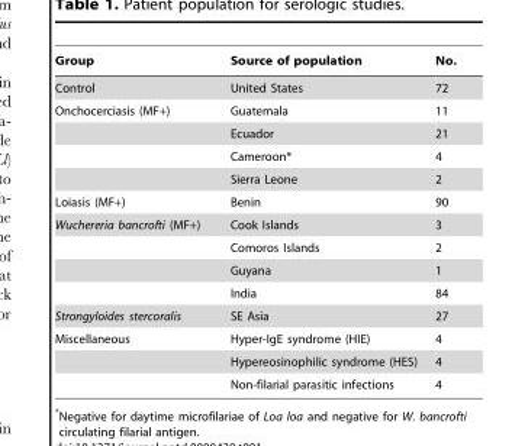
<table><thead><tr><td>Group</td><td>Source of population</td><td>No.</td></tr></thead><tbody><tr><td>Control</td><td>United States</td><td>72</td></tr><tr><td rowspan="4">Onchocerciasis (MF+)</td><td>Guatemala</td><td>11</td></tr><tr><td>Ecuador</td><td>21</td></tr><tr><td>Cameroon*</td><td>4</td></tr><tr><td>Sierra Leone</td><td>2</td></tr><tr><td>Loiasis (MF+)</td><td>Benin</td><td>90</td></tr><tr><td rowspan="4">Wuchereria bancrofti (MF+)</td><td>Cook Islands</td><td>3</td></tr><tr><td>Comoros Islands</td><td>2</td></tr><tr><td>Guyana</td><td>1</td></tr><tr><td>India</td><td>84</td></tr><tr><td>Strongyloides stercoralis</td><td>SE Asia</td><td>27</td></tr><tr><td rowspan="3">Miscellaneous</td><td>Hyper-IgE syndrome (HIE)</td><td>4</td></tr><tr><td>Hypereosinophilic syndrome (HES)</td><td>4</td></tr><tr><td>Non-filarial parasitic infections</td><td>4</td></tr></tbody></table>